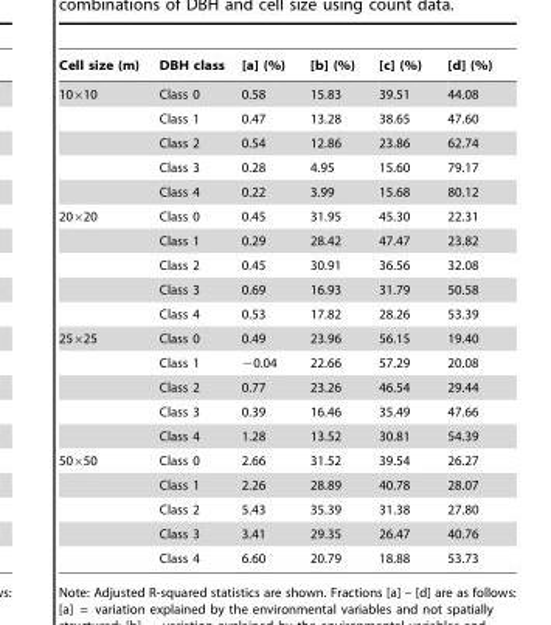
<table><thead><tr><td>Cell size (m)</td><td>DBH class</td><td>[a] (%)</td><td>[b] (%)</td><td>[c] (%)</td><td>[d] (%)</td></tr></thead><tbody><tr><td rowspan="5">10×10</td><td>Class 0</td><td>0.58</td><td>15.83</td><td>39.51</td><td>44.08</td></tr><tr><td>Class 1</td><td>0.47</td><td>13.28</td><td>38.65</td><td>47.60</td></tr><tr><td>Class 2</td><td>0.54</td><td>12.86</td><td>23.86</td><td>62.74</td></tr><tr><td>Class 3</td><td>0.28</td><td>4.95</td><td>15.60</td><td>79.17</td></tr><tr><td>Class 4</td><td>0.22</td><td>3.99</td><td>15.68</td><td>80.12</td></tr><tr><td rowspan="5">20×20</td><td>Class 0</td><td>0.45</td><td>31.95</td><td>45.30</td><td>22.31</td></tr><tr><td>Class 1</td><td>0.29</td><td>28.42</td><td>47.47</td><td>23.82</td></tr><tr><td>Class 2</td><td>0.45</td><td>30.91</td><td>36.56</td><td>32.08</td></tr><tr><td>Class 3</td><td>0.69</td><td>16.93</td><td>31.79</td><td>50.58</td></tr><tr><td>Class 4</td><td>0.53</td><td>17.82</td><td>28.26</td><td>53.39</td></tr><tr><td rowspan="5">25×25</td><td>Class 0</td><td>0.49</td><td>23.96</td><td>56.15</td><td>19.40</td></tr><tr><td>Class 1</td><td>−0.04</td><td>22.66</td><td>57.29</td><td>20.08</td></tr><tr><td>Class 2</td><td>0.77</td><td>23.26</td><td>46.54</td><td>29.44</td></tr><tr><td>Class 3</td><td>0.39</td><td>16.46</td><td>35.49</td><td>47.66</td></tr><tr><td>Class 4</td><td>1.28</td><td>13.52</td><td>30.81</td><td>54.39</td></tr><tr><td rowspan="5">50×50</td><td>Class 0</td><td>2.66</td><td>31.52</td><td>39.54</td><td>26.27</td></tr><tr><td>Class 1</td><td>2.26</td><td>28.89</td><td>40.78</td><td>28.07</td></tr><tr><td>Class 2</td><td>5.43</td><td>35.39</td><td>31.38</td><td>27.80</td></tr><tr><td>Class 3</td><td>3.41</td><td>29.35</td><td>26.47</td><td>40.76</td></tr><tr><td>Class 4</td><td>6.60</td><td>20.79</td><td>18.88</td><td>53.73</td></tr></tbody></table>